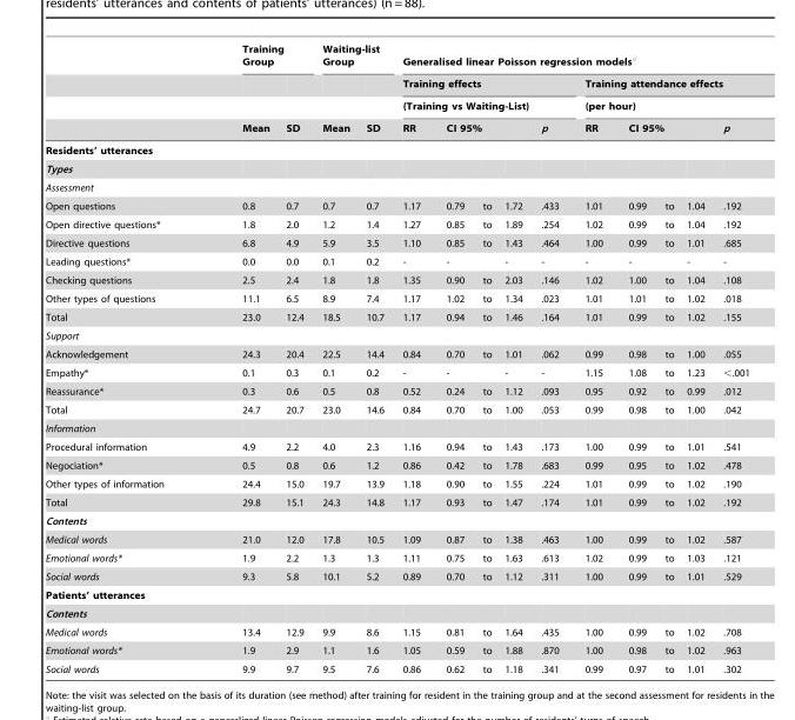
<table><thead><tr><td rowspan="5">Residents’ utterances</td><td colspan="2">Training Group</td><td colspan="2">Waiting-list Group</td><td colspan="10">Generalised linear Poisson regression models°</td></tr><tr><td rowspan="4">Mean</td><td rowspan="4">SD</td><td rowspan="4">Mean</td><td rowspan="4">SD</td><td rowspan="2" colspan="5">Training effects (Training vs Waiting-List)</td><td rowspan="2" colspan="5">Training attendance effects (per hour)</td></tr><tr></tr><tr><td rowspan="2">RR</td><td colspan="3">CI 95%</td><td rowspan="2">p</td><td rowspan="2">RR</td><td colspan="3">CI 95%</td><td rowspan="2">p</td></tr><tr><td></td><td></td><td></td><td></td><td></td><td></td></tr></thead><tbody><tr><td colspan="15">Types</td></tr><tr><td colspan="15">Assessment</td></tr><tr><td>Open questions</td><td>0.8</td><td>0.7</td><td>0.7</td><td>0.7</td><td>1.17</td><td>0.79</td><td>to</td><td>1.72</td><td>.433</td><td>1.01</td><td>0.99</td><td>to</td><td>1.04</td><td>.192</td></tr><tr><td>Open directive questions*</td><td>1.8</td><td>2.0</td><td>1.2</td><td>1.4</td><td>1.27</td><td>0.85</td><td>to</td><td>1.89</td><td>.254</td><td>1.02</td><td>0.99</td><td>to</td><td>1.04</td><td>.192</td></tr><tr><td>Directive questions</td><td>6.8</td><td>4.9</td><td>5.9</td><td>3.5</td><td>1.10</td><td>0.85</td><td>to</td><td>1.43</td><td>.464</td><td>1.00</td><td>0.99</td><td>to</td><td>1.01</td><td>.685</td></tr><tr><td>Leading questions*</td><td>0.0</td><td>0.0</td><td>0.1</td><td>0.2</td><td>-</td><td>-</td><td></td><td>-</td><td>-</td><td>-</td><td>-</td><td></td><td>-</td><td>-</td></tr><tr><td>Checking questions</td><td>2.5</td><td>2.4</td><td>1.8</td><td>1.8</td><td>1.35</td><td>0.90</td><td>to</td><td>2.03</td><td>.146</td><td>1.02</td><td>1.00</td><td>to</td><td>1.04</td><td>.108</td></tr><tr><td>Other types of questions</td><td>11.1</td><td>6.5</td><td>8.9</td><td>7.4</td><td>1.17</td><td>1.02</td><td>to</td><td>1.34</td><td>.023</td><td>1.01</td><td>1.01</td><td>to</td><td>1.02</td><td>.018</td></tr><tr><td>Total</td><td>23.0</td><td>12.4</td><td>18.5</td><td>10.7</td><td>1.17</td><td>0.94</td><td>to</td><td>1.46</td><td>.164</td><td>1.01</td><td>0.99</td><td>to</td><td>1.02</td><td>.155</td></tr><tr><td colspan="15">Support</td></tr><tr><td>Acknowledgement</td><td>24.3</td><td>20.4</td><td>22.5</td><td>14.4</td><td>0.84</td><td>0.70</td><td>to</td><td>1.01</td><td>.062</td><td>0.99</td><td>0.98</td><td>to</td><td>1.00</td><td>.055</td></tr><tr><td>Empathy*</td><td>0.1</td><td>0.3</td><td>0.1</td><td>0.2</td><td>-</td><td>-</td><td></td><td>-</td><td>-</td><td>1.15</td><td>1.08</td><td>to</td><td>1.23</td><td>&lt;.001</td></tr><tr><td>Reassurance*</td><td>0.3</td><td>0.6</td><td>0.5</td><td>0.8</td><td>0.52</td><td>0.24</td><td>to</td><td>1.12</td><td>.093</td><td>0.95</td><td>0.92</td><td>to</td><td>0.99</td><td>.012</td></tr><tr><td>Total</td><td>24.7</td><td>20.7</td><td>23.0</td><td>14.6</td><td>0.84</td><td>0.70</td><td>to</td><td>1.00</td><td>.053</td><td>0.99</td><td>0.98</td><td>to</td><td>1.00</td><td>.042</td></tr><tr><td colspan="15">Information</td></tr><tr><td>Procedural information</td><td>4.9</td><td>2.2</td><td>4.0</td><td>2.3</td><td>1.16</td><td>0.94</td><td>to</td><td>1.43</td><td>.173</td><td>1.00</td><td>0.99</td><td>to</td><td>1.01</td><td>.541</td></tr><tr><td>Negociation*</td><td>0.5</td><td>0.8</td><td>0.6</td><td>1.2</td><td>0.86</td><td>0.42</td><td>to</td><td>1.78</td><td>.683</td><td>0.99</td><td>0.95</td><td>to</td><td>1.02</td><td>.478</td></tr><tr><td>Other types of information</td><td>24.4</td><td>15.0</td><td>19.7</td><td>13.9</td><td>1.18</td><td>0.90</td><td>to</td><td>1.55</td><td>.224</td><td>1.01</td><td>0.99</td><td>to</td><td>1.02</td><td>.190</td></tr><tr><td>Total</td><td>29.8</td><td>15.1</td><td>24.3</td><td>14.8</td><td>1.17</td><td>0.93</td><td>to</td><td>1.47</td><td>.174</td><td>1.01</td><td>0.99</td><td>to</td><td>1.02</td><td>.192</td></tr><tr><td colspan="15">Contents</td></tr><tr><td>Medical words</td><td>21.0</td><td>12.0</td><td>17.8</td><td>10.5</td><td>1.09</td><td>0.87</td><td>to</td><td>1.38</td><td>.463</td><td>1.00</td><td>0.99</td><td>to</td><td>1.02</td><td>.587</td></tr><tr><td>Emotional words*</td><td>1.9</td><td>2.2</td><td>1.3</td><td>1.3</td><td>1.11</td><td>0.75</td><td>to</td><td>1.63</td><td>.613</td><td>1.02</td><td>0.99</td><td>to</td><td>1.03</td><td>.121</td></tr><tr><td>Social words</td><td>9.3</td><td>5.8</td><td>10.1</td><td>5.2</td><td>0.89</td><td>0.70</td><td>to</td><td>1.12</td><td>.311</td><td>1.00</td><td>0.99</td><td>to</td><td>1.01</td><td>.529</td></tr><tr><td colspan="15">Patients’ utterances</td></tr><tr><td colspan="15">Contents</td></tr><tr><td>Medical words</td><td>13.4</td><td>12.9</td><td>9.9</td><td>8.6</td><td>1.15</td><td>0.81</td><td>to</td><td>1.64</td><td>.435</td><td>1.00</td><td>0.99</td><td>to</td><td>1.02</td><td>.708</td></tr><tr><td>Emotional words*</td><td>1.9</td><td>2.9</td><td>1.1</td><td>1.6</td><td>1.05</td><td>0.59</td><td>to</td><td>1.88</td><td>.870</td><td>1.00</td><td>0.98</td><td>to</td><td>1.02</td><td>.963</td></tr><tr><td>Social words</td><td>9.9</td><td>9.7</td><td>9.5</td><td>7.6</td><td>0.86</td><td>0.62</td><td>to</td><td>1.18</td><td>.341</td><td>0.99</td><td>0.97</td><td>to</td><td>1.01</td><td>.302</td></tr></tbody></table>